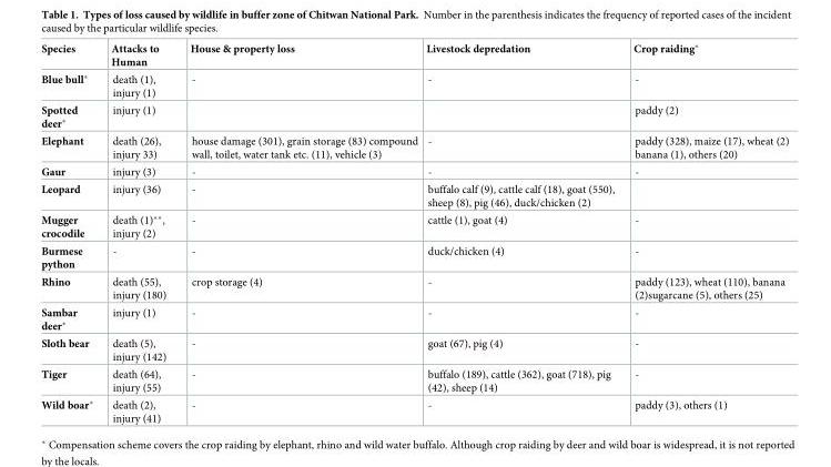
<table><thead><tr><td>Species</td><td>Attacks to Human</td><td>House &amp; property loss</td><td>Livestock depredation</td><td>Crop raiding*</td></tr></thead><tbody><tr><td>Blue bull*</td><td>death (1), injury (1)</td><td>-</td><td>-</td><td>-</td></tr><tr><td>Spotted deer*</td><td>injury (1)</td><td></td><td></td><td>paddy (2)</td></tr><tr><td>Elephant</td><td>death (26), injury 33)</td><td>house damage (301), grain storage (83) compound wall, toilet, water tank etc. (11), vehicle (3)</td><td>-</td><td>paddy (328), maize (17), wheat (2) banana (1), others (20)</td></tr><tr><td>Gaur</td><td>injury (3)</td><td>-</td><td>-</td><td>-</td></tr><tr><td>Leopard</td><td>injury (36)</td><td>-</td><td>buffalo calf (9), cattle calf (18), goat (550), sheep (8), pig (46), duck/chicken (2)</td><td></td></tr><tr><td>Mugger crocodile</td><td>death (1)**, injury (2)</td><td>-</td><td>cattle (1), goat (4)</td><td>-</td></tr><tr><td>Burmese python</td><td>-</td><td>-</td><td>duck/chicken (4)</td><td>-</td></tr><tr><td>Rhino</td><td>death (55), injury (180)</td><td>crop storage (4)</td><td>-</td><td>paddy (123), wheat (110), banana (2)sugarcane (5), others (25)</td></tr><tr><td>Sambar deer*</td><td>injury (1)</td><td>-</td><td>-</td><td>-</td></tr><tr><td>Sloth bear</td><td>death (5), injury (142)</td><td>-</td><td>goat (67), pig (4)</td><td>-</td></tr><tr><td>Tiger</td><td>death (64), injury (55)</td><td>-</td><td>buffalo (189), cattle (362), goat (718), pig (42), sheep (14)</td><td>-</td></tr><tr><td>Wild boar*</td><td>death (2), injury (41)</td><td>-</td><td>-</td><td>paddy (3), others (1)</td></tr></tbody></table>